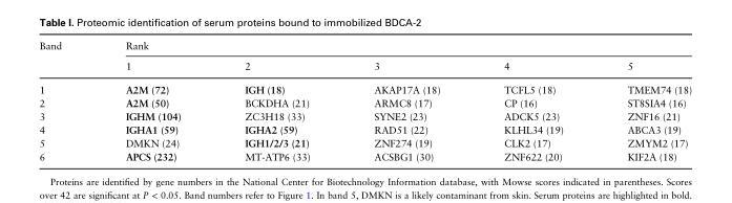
<table><thead><tr><td rowspan="2">Band</td><td colspan="5">Rank</td></tr><tr><td>1</td><td>2</td><td>3</td><td>4</td><td>5</td></tr></thead><tbody><tr><td>1</td><td>A2M (72)</td><td>IGH (18)</td><td>AKAP17A (18)</td><td>TCFL5 (18)</td><td>TMEM74 (18)</td></tr><tr><td>2</td><td>A2M (50)</td><td>BCKDHA (21)</td><td>ARMC8 (17)</td><td>CP (16)</td><td>ST8SIA4 (16)</td></tr><tr><td>3</td><td>IGHM (104)</td><td>ZC3H18 (33)</td><td>SYNE2 (23)</td><td>ADCK5 (23)</td><td>ZNF16 (21)</td></tr><tr><td>4</td><td>IGHA1 (59)</td><td>IGHA2 (59)</td><td>RAD51 (22)</td><td>KLHL34 (19)</td><td>ABCA3 (19)</td></tr><tr><td>5</td><td>DMKN (24)</td><td>IGH1/2/3 (21)</td><td>ZNF274 (19)</td><td>CLK2 (17)</td><td>ZMYM2 (17)</td></tr><tr><td>6</td><td>APCS (232)</td><td>MT-ATP6 (33)</td><td>ACSBG1 (30)</td><td>ZNF622 (20)</td><td>KIF2A (18)</td></tr></tbody></table>